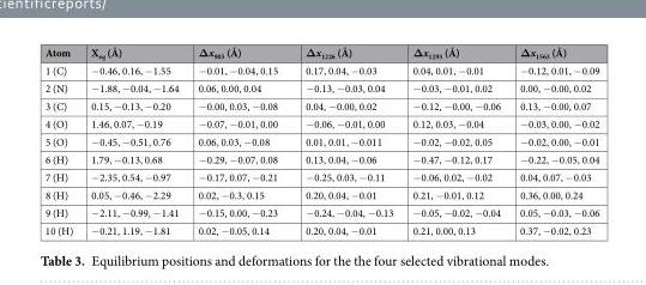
<table><thead><tr><td>Atom</td><td>X<sub>eq</sub> (Å)</td><td>Δx<sub>905</sub> (Å)</td><td>Δx<sub>1226</sub> (Å)</td><td>Δx<sub>1293</sub> (Å)</td><td>Δx<sub>1563</sub> (Å)</td></tr></thead><tbody><tr><td>1 (C)</td><td>−0.46, 0.16, −1.55</td><td>−0.01, −0.04, 0.15</td><td>0.17, 0.04, −0.03</td><td>0.04, 0.01, −0.01</td><td>−0.12, 0.01, −0.09</td></tr><tr><td>2 (N)</td><td>−1.88, −0.04, −1.64</td><td>0.06, 0.00, 0.04</td><td>−0.13, −0.03, 0.04</td><td>−0.03, −0.01, 0.02</td><td>0.00, −0.00, 0.02</td></tr><tr><td>3 (C)</td><td>0.15, −0.13, −0.20</td><td>−0.00, 0.03, −0.08</td><td>0.04, −0.00, 0.02</td><td>−0.12, −0.00, −0.06</td><td>0.13, −0.00, 0.07</td></tr><tr><td>4 (O)</td><td>1.46, 0.07, −0.19</td><td>−0.07, −0.01, 0.00</td><td>−0.06, −0.01, 0.00</td><td>0.12, 0.03, −0.04</td><td>−0.03, 0.00, −0.02</td></tr><tr><td>5 (O)</td><td>−0.45, −0.51, 0.76</td><td>0.06, 0.03, −0.08</td><td>0.01, 0.01, −0.011</td><td>−0.02, −0.02, 0.05</td><td>−0.02, 0.00, −0.01</td></tr><tr><td>6 (H)</td><td>1.79, −0.13, 0.68</td><td>−0.29, −0.07, 0.08</td><td>0.13, 0.04, −0.06</td><td>−0.47, −0.12, 0.17</td><td>−0.22, −0.05, 0.04</td></tr><tr><td>7 (H)</td><td>−2.35, 0.54, −0.97</td><td>−0.17, 0.07, −0.21</td><td>−0.25, 0.03, −0.11</td><td>−0.06, 0.02, −0.02</td><td>0.04, 0.07, −0.03</td></tr><tr><td>8 (H)</td><td>0.05, −0.46, −2.29</td><td>0.02, −0.3, 0.15</td><td>0.20, 0.04, −0.01</td><td>0.21, −0.01, 0.12</td><td>0.36, 0.00, 0.24</td></tr><tr><td>9 (H)</td><td>−2.11, −0.99, −1.41</td><td>−0.15, 0.00, −0.23</td><td>−0.24, −0.04, −0.13</td><td>−0.05, −0.02, −0.04</td><td>0.05, −0.03, −0.06</td></tr><tr><td>10 (H)</td><td>−0.21, 1.19, −1.81</td><td>0.02, −0.05, 0.14</td><td>0.20, 0.04, −0.01</td><td>0.21, 0.00, 0.13</td><td>0.37, −0.02, 0.23</td></tr></tbody></table>